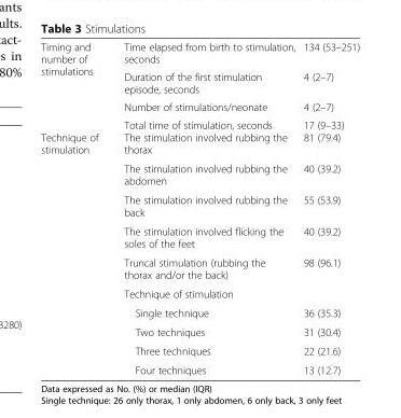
<table><thead><tr><td rowspan="4">Timing and number of stimulations</td><td rowspan="4">Time elapsed from birth to stimulation, seconds Duration of the first stimulation episode, seconds Number of stimulations/neonate Total time of stimulation, seconds</td><td rowspan="4">134 (53–251) 4 (2–7) 4 (2–7) 17 (9–33)</td></tr><tr></tr><tr></tr><tr></tr></thead><tbody><tr><td rowspan="10">Technique of stimulation</td><td>The stimulation involved rubbing the thorax</td><td>81 (79.4)</td></tr><tr><td>The stimulation involved rubbing the abdomen</td><td>40 (39.2)</td></tr><tr><td>The stimulation involved rubbing the back</td><td>55 (53.9)</td></tr><tr><td>The stimulation involved flicking the soles of the feet</td><td>40 (39.2)</td></tr><tr><td>Truncal stimulation (rubbing the thorax and/or the back)</td><td>98 (96.1)</td></tr><tr><td colspan="2">Technique of stimulation</td></tr><tr><td>Single technique</td><td>36 (35.3)</td></tr><tr><td>Two techniques</td><td>31 (30.4)</td></tr><tr><td>Three techniques</td><td>22 (21.6)</td></tr><tr><td>Four techniques</td><td>13 (12.7)</td></tr></tbody></table>